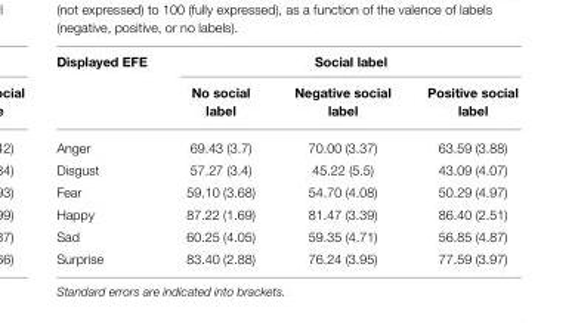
<table><thead><tr><td rowspan="2">Displayed EFE</td><td colspan="3">Social label</td></tr><tr><td>No social label</td><td>Negative social label</td><td>Positive social label</td></tr></thead><tbody><tr><td>Anger</td><td>69.43 (3.7)</td><td>70.00 (3.37)</td><td>63.59 (3.88)</td></tr><tr><td>Disgust</td><td>57.27 (3.4)</td><td>45.22 (5.5)</td><td>43.09 (4.07)</td></tr><tr><td>Fear</td><td>59.10 (3.68)</td><td>54.70 (4.08)</td><td>50.29 (4.97)</td></tr><tr><td>Happy</td><td>87.22 (1.69)</td><td>81.47 (3.39)</td><td>86.40 (2.51)</td></tr><tr><td>Sad</td><td>60.25 (4.05)</td><td>59.35 (4.71)</td><td>56.85 (4.87)</td></tr><tr><td>Surprise</td><td>83.40 (2.88)</td><td>76.24 (3.95)</td><td>77.59 (3.97)</td></tr></tbody></table>